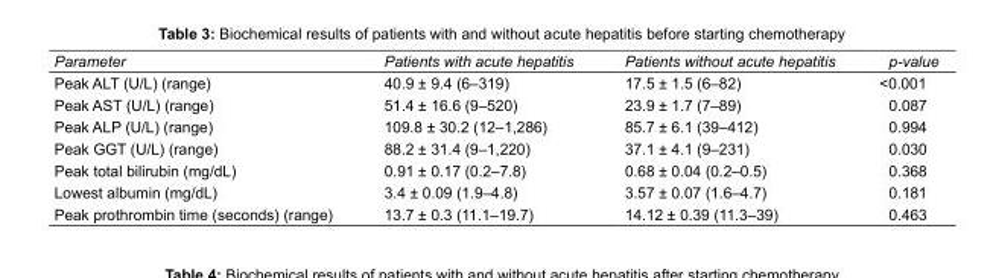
<table><tbody><tr><td>Parameter</td><td>Patients with acute hepatitis</td><td>Patients without acute hepatitis</td><td>p-value</td></tr><tr><td>Peak ALT (U/L) (range)</td><td>40.9 ± 9.4 (6–319)</td><td>17.5 ± 1.5 (6–82)</td><td>&lt;0.001</td></tr><tr><td>Peak AST (U/L) (range)</td><td>51.4 ± 16.6 (9–520)</td><td>23.9 ± 1.7 (7–89)</td><td>0.087</td></tr><tr><td>Peak ALP (U/L) (range)</td><td>109.8 ± 30.2 (12–1,286)</td><td>85.7 ± 6.1 (39–412)</td><td>0.994</td></tr><tr><td>Peak GGT (U/L) (range)</td><td>88.2 ± 31.4 (9–1,220)</td><td>37.1 ± 4.1 (9–231)</td><td>0.030</td></tr><tr><td>Peak total bilirubin (mg/dL)</td><td>0.91 ± 0.17 (0.2–7.8)</td><td>0.68 ± 0.04 (0.2–0.5)</td><td>0.368</td></tr><tr><td>Lowest albumin (mg/dL)</td><td>3.4 ± 0.09 (1.9–4.8)</td><td>3.57 ± 0.07 (1.6–4.7)</td><td>0.181</td></tr><tr><td>Peak prothrombin time (seconds) (range)</td><td>13.7 ± 0.3 (11.1–19.7)</td><td>14.12 ± 0.39 (11.3–39)</td><td>0.463</td></tr></tbody></table>